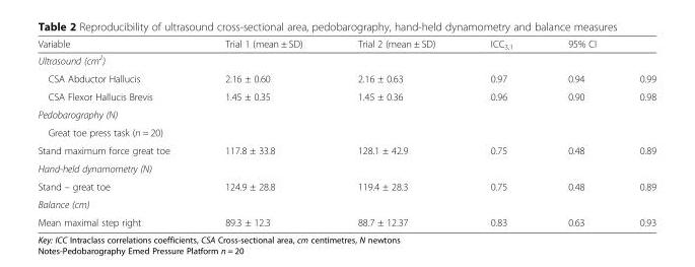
<table><thead><tr><td>Variable</td><td>Trial 1 (mean ± SD)</td><td>Trial 2 (mean ± SD)</td><td>ICC<sub>3,1</sub></td><td colspan="2">95% CI</td></tr><tr><td colspan="6">Ultrasound (cm<sup>2</sup>)</td></tr><tr><td>CSA Abductor Hallucis</td><td>2.16 ± 0.60</td><td>2.16 ± 0.63</td><td>0.97</td><td>0.94</td><td>0.99</td></tr></thead><tbody><tr><td>CSA Flexor Hallucis Brevis</td><td>1.45 ± 0.35</td><td>1.45 ± 0.36</td><td>0.96</td><td>0.90</td><td>0.98</td></tr><tr><td colspan="6">Pedobarography (N)</td></tr><tr><td colspan="6">Great toe press task (n = 20)</td></tr><tr><td>Stand maximum force great toe</td><td>117.8 ± 33.8</td><td>128.1 ± 42.9</td><td>0.75</td><td>0.48</td><td>0.89</td></tr><tr><td colspan="6">Hand-held dynamometry (N)</td></tr><tr><td>Stand – great toe</td><td>124.9 ± 28.8</td><td>119.4 ± 28.3</td><td>0.75</td><td>0.48</td><td>0.89</td></tr><tr><td colspan="6">Balance (cm)</td></tr><tr><td>Mean maximal step right</td><td>89.3 ± 12.3</td><td>88.7 ± 12.37</td><td>0.83</td><td>0.63</td><td>0.93</td></tr></tbody></table>